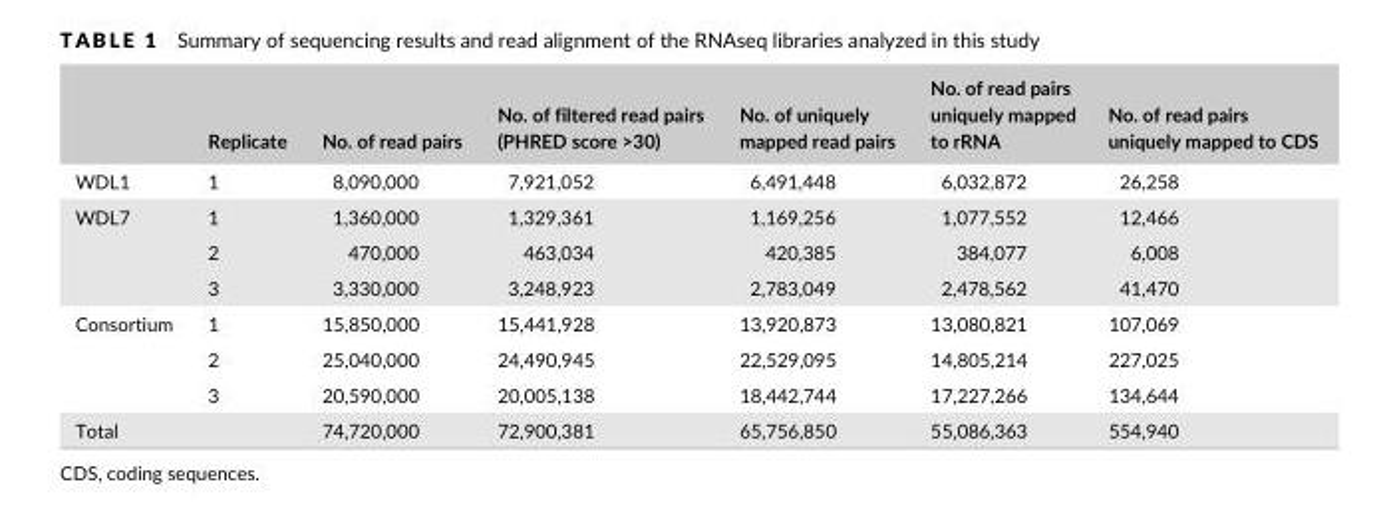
<table><thead><tr><td></td><td>Replicate</td><td>No. of read pairs</td><td>No. of filtered read pairs (PHRED score &gt;30)</td><td>No. of uniquely mapped read pairs</td><td>No. of read pairs uniquely mapped to rRNA</td><td>No. of read pairs uniquely mapped to CDS</td></tr></thead><tbody><tr><td>WDL1</td><td>1</td><td>8,090,000</td><td>7,921,052</td><td>6,491,448</td><td>6,032,872</td><td>26,258</td></tr><tr><td rowspan="3">WDL7</td><td>1</td><td>1,360,000</td><td>1,329,361</td><td>1,169,256</td><td>1,077,552</td><td>12,466</td></tr><tr><td>2</td><td>470,000</td><td>463,034</td><td>420,385</td><td>384,077</td><td>6,008</td></tr><tr><td>3</td><td>3,330,000</td><td>3,248,923</td><td>2,783,049</td><td>2,478,562</td><td>41,470</td></tr><tr><td rowspan="3">Consortium</td><td>1</td><td>15,850,000</td><td>15,441,928</td><td>13,920,873</td><td>13,080,821</td><td>107,069</td></tr><tr><td>2</td><td>25,040,000</td><td>24,490,945</td><td>22,529,095</td><td>14,805,214</td><td>227,025</td></tr><tr><td>3</td><td>20,590,000</td><td>20,005,138</td><td>18,442,744</td><td>17,227,266</td><td>134,644</td></tr><tr><td>Total</td><td></td><td>74,720,000</td><td>72,900,381</td><td>65,756,850</td><td>55,086,363</td><td>554,940</td></tr></tbody></table>